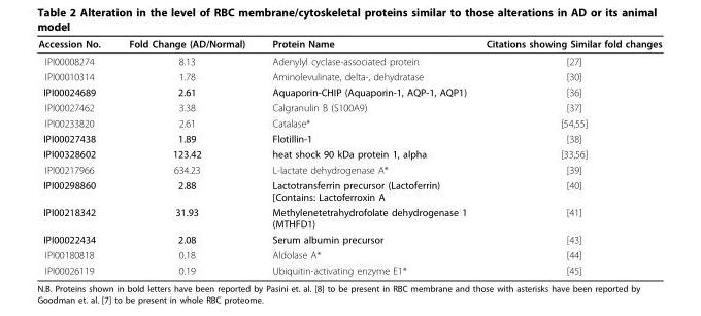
<table><thead><tr><td>Accession No.</td><td>Fold Change (AD/Normal)</td><td>Protein Name</td><td>Citations showing Similar fold changes</td></tr></thead><tbody><tr><td>IPI00008274</td><td>8.13</td><td>Adenylyl cyclase-associated protein</td><td>[27]</td></tr><tr><td>IPI00010314</td><td>1.78</td><td>Aminolevulinate, delta-, dehydratase</td><td>[30]</td></tr><tr><td>IPI00024689</td><td>2.61</td><td>Aquaporin-CHIP (Aquaporin-1, AQP-1, AQP1)</td><td>[36]</td></tr><tr><td>IPI00027462</td><td>3.38</td><td>Calgranulin B (S100A9)</td><td>[37]</td></tr><tr><td>IPI00233820</td><td>2.61</td><td>Catalase*</td><td>[54,55]</td></tr><tr><td>IPI00027438</td><td>1.89</td><td>Flotillin-1</td><td>[38]</td></tr><tr><td>IPI00328602</td><td>123.42</td><td>heat shock 90 kDa protein 1, alpha</td><td>[33,56]</td></tr><tr><td>IPI00217966</td><td>634.23</td><td>L-lactate dehydrogenase A*</td><td>[39]</td></tr><tr><td>IPI00298860</td><td>2.88</td><td>Lactotransferrin precursor (Lactoferrin) [Contains: Lactoferroxin A</td><td>[40]</td></tr><tr><td>IPI00218342</td><td>31.93</td><td>Methylenetetrahydrofolate dehydrogenase 1 (MTHFD1)</td><td>[41]</td></tr><tr><td>IPI00022434</td><td>2.08</td><td>Serum albumin precursor</td><td>[43]</td></tr><tr><td>IPI00180818</td><td>0.18</td><td>Aldolase A*</td><td>[44]</td></tr><tr><td>IPI00026119</td><td>0.19</td><td>Ubiquitin-activating enzyme E1*</td><td>[45]</td></tr></tbody></table>